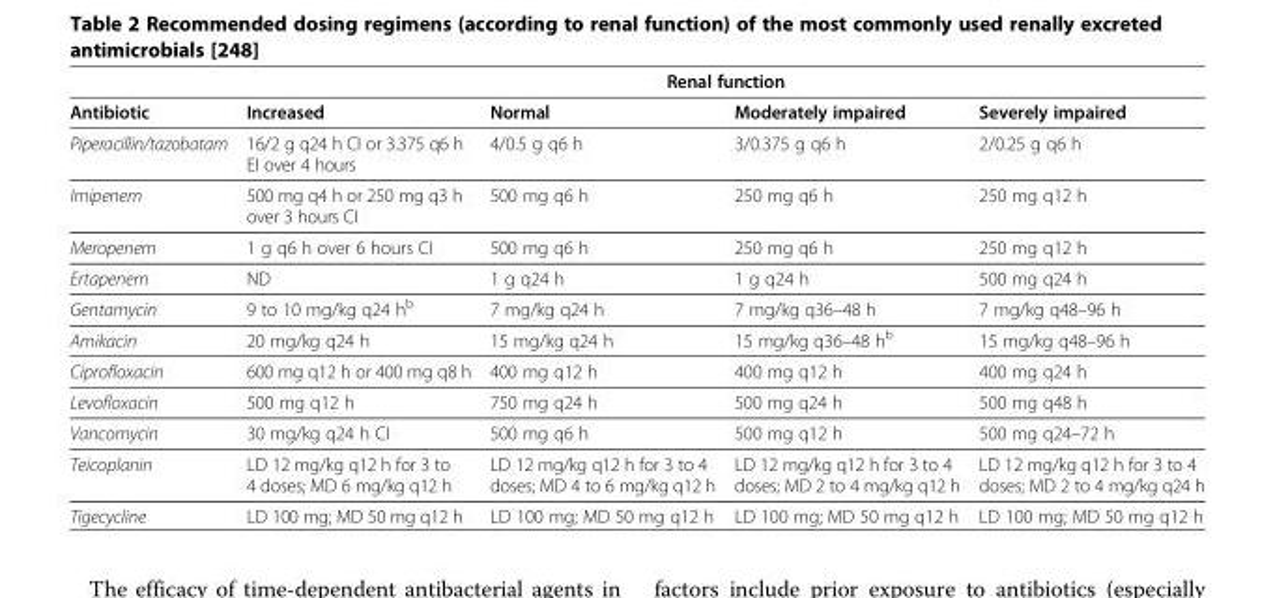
<table><thead><tr><td rowspan="2">Antibiotic</td><td colspan="4">Renal function</td></tr><tr><td>Increased</td><td>Normal</td><td>Moderately impaired</td><td>Severely impaired</td></tr></thead><tbody><tr><td>Piperacillin/tazobatam</td><td>16/2 g q24 h CI or 3.375 q6 h EI over 4 hours</td><td>4/0.5 g q6 h</td><td>3/0.375 g q6 h</td><td>2/0.25 g q6 h</td></tr><tr><td>Imipenem</td><td>500 mg q4 h or 250 mg q3 h over 3 hours CI</td><td>500 mg q6 h</td><td>250 mg q6 h</td><td>250 mg q12 h</td></tr><tr><td>Meropenem</td><td>1 g q6 h over 6 hours CI</td><td>500 mg q6 h</td><td>250 mg q6 h</td><td>250 mg q12 h</td></tr><tr><td>Ertapenem</td><td>ND</td><td>1 g q24 h</td><td>1 g q24 h</td><td>500 mg q24 h</td></tr><tr><td>Gentamycin</td><td>9 to 10 mg/kg q24 h<sup>b</sup></td><td>7 mg/kg q24 h</td><td>7 mg/kg q36–48 h</td><td>7 mg/kg q48–96 h</td></tr><tr><td>Amikacin</td><td>20 mg/kg q24 h</td><td>15 mg/kg q24 h</td><td>15 mg/kg q36–48 h<sup>b</sup></td><td>15 mg/kg q48–96 h</td></tr><tr><td>Ciprofloxacin</td><td>600 mg q12 h or 400 mg q8 h</td><td>400 mg q12 h</td><td>400 mg q12 h</td><td>400 mg q24 h</td></tr><tr><td>Levofloxacin</td><td>500 mg q12 h</td><td>750 mg q24 h</td><td>500 mg q24 h</td><td>500 mg q48 h</td></tr><tr><td>Vancomycin</td><td>30 mg/kg q24 h CI</td><td>500 mg q6 h</td><td>500 mg q12 h</td><td>500 mg q24–72 h</td></tr><tr><td>Teicoplanin</td><td>LD 12 mg/kg q12 h for 3 to 4 doses; MD 6 mg/kg q12 h</td><td>LD 12 mg/kg q12 h for 3 to 4 doses; MD 4 to 6 mg/kg q12 h</td><td>LD 12 mg/kg q12 h for 3 to 4 doses; MD 2 to 4 mg/kg q12 h</td><td>LD 12 mg/kg q12 h for 3 to 4 doses; MD 2 to 4 mg/kg q24 h</td></tr><tr><td>Tigecycline</td><td>LD 100 mg; MD 50 mg q12 h</td><td>LD 100 mg; MD 50 mg q12 h</td><td>LD 100 mg; MD 50 mg q12 h</td><td>LD 100 mg; MD 50 mg q12 h</td></tr></tbody></table>